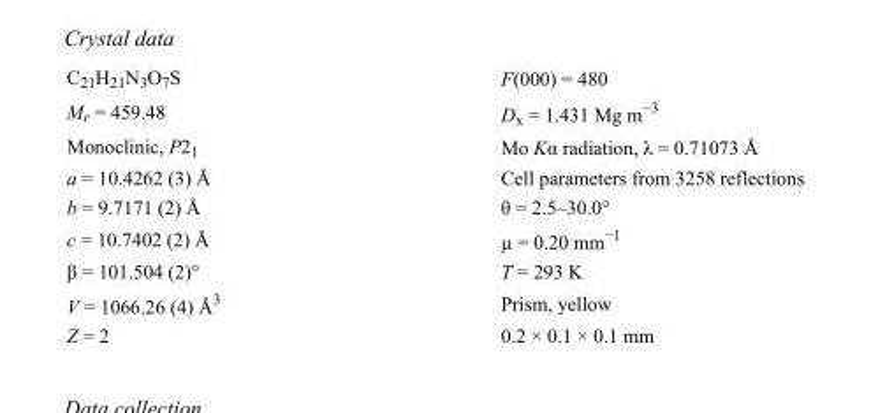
<table><tbody><tr><td>C<sub>21</sub>H<sub>21</sub>N<sub>3</sub>O<sub>7</sub>S</td><td>F(000) = 480</td></tr><tr><td>M<sub>r</sub> = 459.48</td><td>D<sub>x</sub> = 1.431 Mg m<sup>−3</sup></td></tr><tr><td>Monoclinic, P2<sub>1</sub></td><td>Mo Kα radiation, λ = 0.71073 Å</td></tr><tr><td>a = 10.4262 (3) Å</td><td>Cell parameters from 3258 reflections</td></tr><tr><td>b = 9.7171 (2) Å</td><td>θ = 2.5–30.0°</td></tr><tr><td>c = 10.7402 (2) Å</td><td>µ = 0.20 mm<sup>−1</sup></td></tr><tr><td>β = 101.504 (2)°</td><td>T = 293 K</td></tr><tr><td>V = 1066.26 (4) Å<sup>3</sup></td><td>Prism, yellow</td></tr><tr><td>Z = 2</td><td>0.2 × 0.1 × 0.1 mm</td></tr></tbody></table>